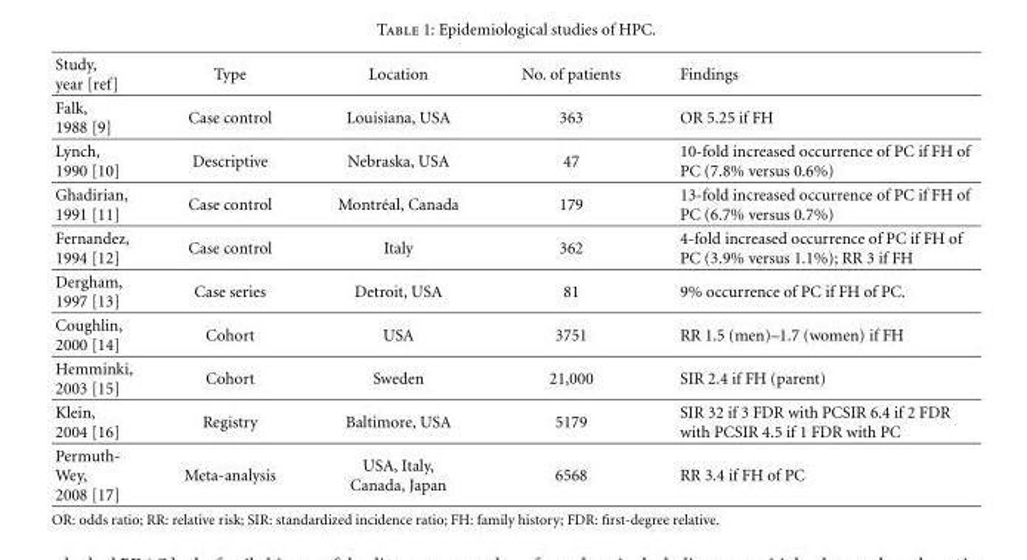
<table><thead><tr><td>Study, year [ref]</td><td>Type</td><td>Location</td><td>No. of patients</td><td>Findings</td></tr></thead><tbody><tr><td>Falk, 1988 [9]</td><td>Case control</td><td>Louisiana, USA</td><td>363</td><td>OR 5.25 if FH</td></tr><tr><td>Lynch, 1990 [10]</td><td>Descriptive</td><td>Nebraska, USA</td><td>47</td><td>10-fold increased occurrence of PC if FH of PC (7.8% versus 0.6%)</td></tr><tr><td>Ghadirian, 1991 [11]</td><td>Case control</td><td>Montr´eal, Canada</td><td>179</td><td>13-fold increased occurrence of PC if FH of PC (6.7% versus 0.7%)</td></tr><tr><td>Fernandez, 1994 [12]</td><td>Case control</td><td>Italy</td><td>362</td><td>4-fold increased occurrence of PC if FH of PC (3.9% versus 1.1%); RR 3 if FH</td></tr><tr><td>Dergham, 1997 [13]</td><td>Case series</td><td>Detroit, USA</td><td>81</td><td>9% occurrence of PC if FH of PC.</td></tr><tr><td>Coughlin, 2000 [14]</td><td>Cohort</td><td>USA</td><td>3751</td><td>RR 1.5 (men)–1.7 (women) if FH</td></tr><tr><td>Hemminki, 2003 [15]</td><td>Cohort</td><td>Sweden</td><td>21,000</td><td>SIR 2.4 if FH (parent)</td></tr><tr><td>Klein, 2004 [16]</td><td>Registry</td><td>Baltimore, USA</td><td>5179</td><td>SIR 32 if 3 FDR with PCSIR 6.4 if 2 FDR with PCSIR 4.5 if 1 FDR with PC</td></tr><tr><td>Permuth- Wey, 2008 [17]</td><td>Meta-analysis</td><td>USA, Italy, Canada, Japan</td><td>6568</td><td>RR 3.4 if FH of PC</td></tr></tbody></table>